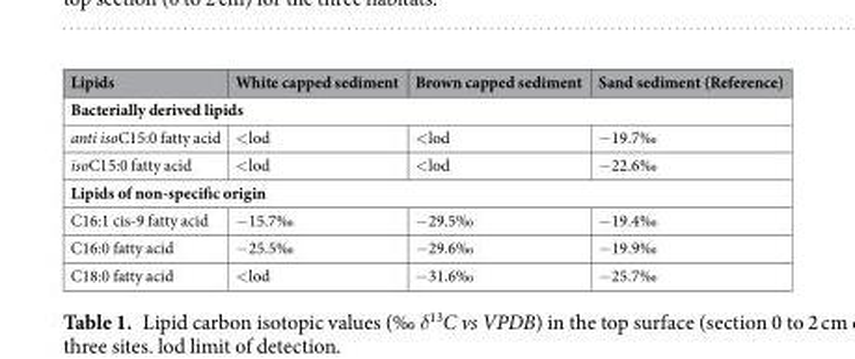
<table><thead><tr><td>Lipids</td><td>White capped sediment</td><td>Brown capped sediment</td><td>Sand sediment (Reference)</td></tr></thead><tbody><tr><td colspan="4">Bacterially derived lipids</td></tr><tr><td>anti isoC15:0 fatty acid</td><td>&lt;lod</td><td>&lt;lod</td><td>−19.7‰</td></tr><tr><td>isoC15:0 fatty acid</td><td>&lt;lod</td><td>&lt;lod</td><td>−22.6‰</td></tr><tr><td colspan="4">Lipids of non-specific origin</td></tr><tr><td>C16:1 cis-9 fatty acid</td><td>−15.7‰</td><td>−29.5‰</td><td>−19.4‰</td></tr><tr><td>C16:0 fatty acid</td><td>−25.5‰</td><td>−29.6‰</td><td>−19.9‰</td></tr><tr><td>C18:0 fatty acid</td><td>&lt;lod</td><td>−31.6‰</td><td>−25.7‰</td></tr></tbody></table>